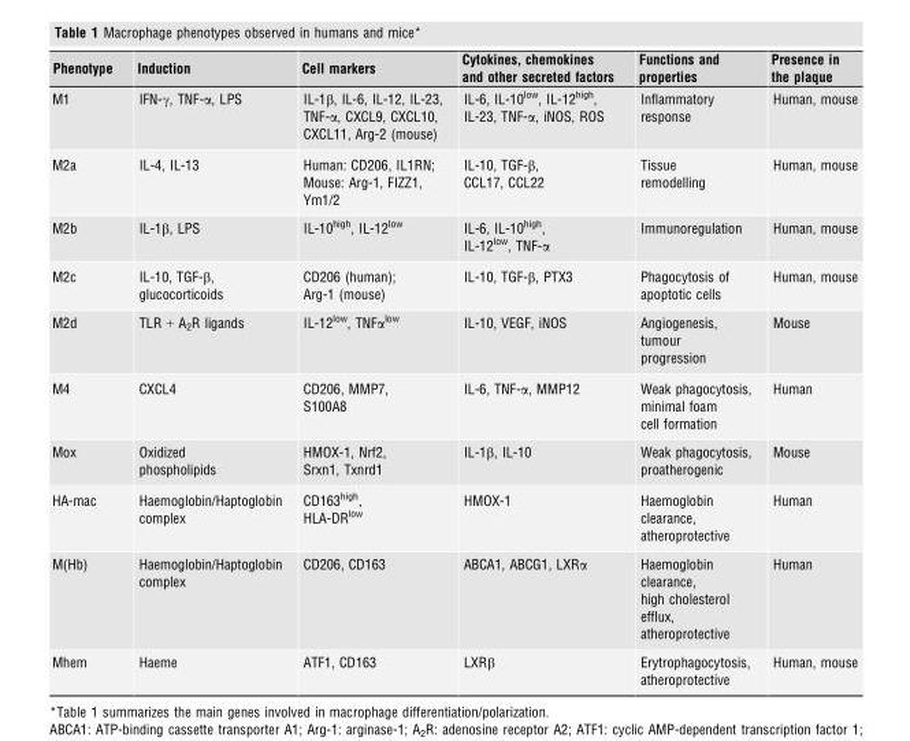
<table><thead><tr><td>Phenotype</td><td>Induction</td><td>Cell markers</td><td>Cytokines, chemokines and other secreted factors</td><td>Functions and properties</td><td>Presence in the plaque</td></tr></thead><tbody><tr><td>M1</td><td>IFN-γ, TNF-α, LPS</td><td>IL-1β, IL-6, IL-12, IL-23, TNF-α, CXCL9, CXCL10, CXCL11, Arg-2 (mouse)</td><td>IL-6, IL-10<sup>low</sup>, IL-12<sup>high</sup>, IL-23, TNF-α, iNOS, ROS</td><td>Inflammatory response</td><td>Human, mouse</td></tr><tr><td>M2a</td><td>IL-4, IL-13</td><td>Human: CD206, IL1RN; Mouse: Arg-1, FIZZ1, Ym1/2</td><td>IL-10, TGF-β, CCL17, CCL22</td><td>Tissue remodelling</td><td>Human, mouse</td></tr><tr><td>M2b</td><td>IL-1β, LPS</td><td>IL-10<sup>high</sup>, IL-12<sup>low</sup></td><td>IL-6, IL-10<sup>high</sup>, IL-12<sup>low</sup>, TNF-α</td><td>Immunoregulation</td><td>Human, mouse</td></tr><tr><td>M2c</td><td>IL-10, TGF-β, glucocorticoids</td><td>CD206 (human); Arg-1 (mouse)</td><td>IL-10, TGF-β, PTX3</td><td>Phagocytosis of apoptotic cells</td><td>Human, mouse</td></tr><tr><td>M2d</td><td>TLR + A<sub>2</sub>R ligands</td><td>IL-12<sup>low</sup>, TNFα<sup>low</sup></td><td>IL-10, VEGF, iNOS</td><td>Angiogenesis, tumour progression</td><td>Mouse</td></tr><tr><td>M4</td><td>CXCL4</td><td>CD206, MMP7, S100A8</td><td>IL-6, TNF-α, MMP12</td><td>Weak phagocytosis, minimal foam cell formation</td><td>Human</td></tr><tr><td>Mox</td><td>Oxidized phospholipids</td><td>HMOX-1, Nrf2, Srxn1, Txnrd1</td><td>IL-1β, IL-10</td><td>Weak phagocytosis, proatherogenic</td><td>Mouse</td></tr><tr><td>HA-mac</td><td>Haemoglobin/Haptoglobin complex</td><td>CD163<sup>high</sup>, HLA-DR<sup>low</sup></td><td>HMOX-1</td><td>Haemoglobin clearance, atheroprotective</td><td>Human</td></tr><tr><td>M(Hb)</td><td>Haemoglobin/Haptoglobin complex</td><td>CD206, CD163</td><td>ABCA1, ABCG1, LXRα</td><td>Haemoglobin clearance, high cholesterol efflux, atheroprotective</td><td>Human</td></tr><tr><td>Mhem</td><td>Haeme</td><td>ATF1, CD163</td><td>LXRβ</td><td>Erytrophagocytosis, atheroprotective</td><td>Human, mouse</td></tr></tbody></table>